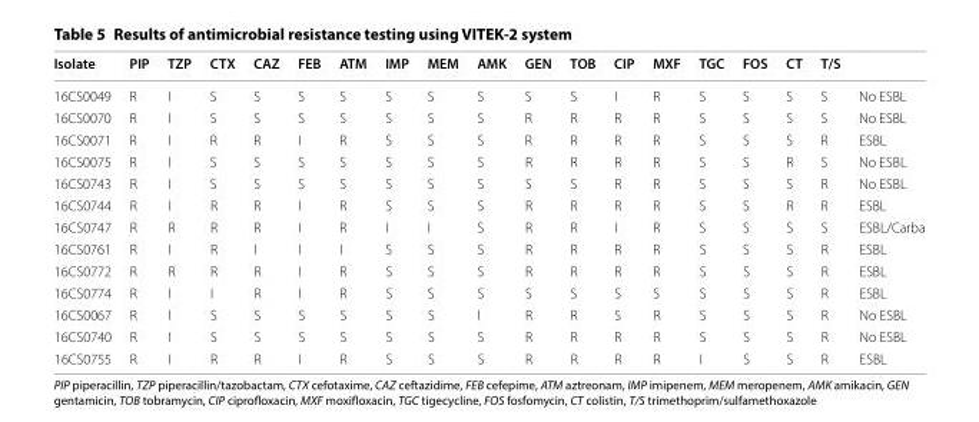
<table><thead><tr><td>Isolate</td><td>PIP</td><td>TZP</td><td>CTX</td><td>CAZ</td><td>FEB</td><td>ATM</td><td>IMP</td><td>MEM</td><td>AMK</td><td>GEN</td><td>TOB</td><td>CIP</td><td>MXF</td><td>TGC</td><td>FOS</td><td>CT</td><td>T/S</td><td></td></tr></thead><tbody><tr><td>16CS0049</td><td>R</td><td>I</td><td>S</td><td>S</td><td>S</td><td>S</td><td>S</td><td>S</td><td>S</td><td>S</td><td>S</td><td>I</td><td>R</td><td>S</td><td>S</td><td>S</td><td>S</td><td>No ESBL</td></tr><tr><td>16CS0070</td><td>R</td><td>I</td><td>S</td><td>S</td><td>S</td><td>S</td><td>S</td><td>S</td><td>S</td><td>R</td><td>R</td><td>R</td><td>R</td><td>S</td><td>S</td><td>S</td><td>S</td><td>No ESBL</td></tr><tr><td>16CS0071</td><td>R</td><td>I</td><td>R</td><td>R</td><td>I</td><td>R</td><td>S</td><td>S</td><td>S</td><td>R</td><td>R</td><td>R</td><td>R</td><td>S</td><td>S</td><td>S</td><td>R</td><td>ESBL</td></tr><tr><td>16CS0075</td><td>R</td><td>I</td><td>S</td><td>S</td><td>S</td><td>S</td><td>S</td><td>S</td><td>S</td><td>R</td><td>R</td><td>R</td><td>R</td><td>S</td><td>S</td><td>R</td><td>S</td><td>No ESBL</td></tr><tr><td>16CS0743</td><td>R</td><td>I</td><td>S</td><td>S</td><td>S</td><td>S</td><td>S</td><td>S</td><td>S</td><td>S</td><td>S</td><td>R</td><td>R</td><td>S</td><td>S</td><td>S</td><td>R</td><td>No ESBL</td></tr><tr><td>16CS0744</td><td>R</td><td>I</td><td>R</td><td>R</td><td>I</td><td>R</td><td>S</td><td>S</td><td>S</td><td>R</td><td>R</td><td>R</td><td>R</td><td>S</td><td>S</td><td>R</td><td>R</td><td>ESBL</td></tr><tr><td>16CS0747</td><td>R</td><td>R</td><td>R</td><td>R</td><td>I</td><td>R</td><td>I</td><td>I</td><td>S</td><td>R</td><td>R</td><td>I</td><td>R</td><td>S</td><td>S</td><td>S</td><td>S</td><td>ESBL/Carba</td></tr><tr><td>16CS0761</td><td>R</td><td>I</td><td>R</td><td>I</td><td>I</td><td>I</td><td>S</td><td>S</td><td>S</td><td>R</td><td>R</td><td>R</td><td>R</td><td>S</td><td>S</td><td>S</td><td>R</td><td>ESBL</td></tr><tr><td>16CS0772</td><td>R</td><td>R</td><td>R</td><td>R</td><td>I</td><td>R</td><td>S</td><td>S</td><td>S</td><td>R</td><td>R</td><td>R</td><td>R</td><td>S</td><td>S</td><td>S</td><td>R</td><td>ESBL</td></tr><tr><td>16CS0774</td><td>R</td><td>I</td><td>I</td><td>R</td><td>I</td><td>R</td><td>S</td><td>S</td><td>S</td><td>S</td><td>S</td><td>S</td><td>S</td><td>S</td><td>S</td><td>S</td><td>R</td><td>ESBL</td></tr><tr><td>16CS0067</td><td>R</td><td>I</td><td>S</td><td>S</td><td>S</td><td>S</td><td>S</td><td>S</td><td>I</td><td>R</td><td>R</td><td>S</td><td>R</td><td>S</td><td>S</td><td>S</td><td>R</td><td>No ESBL</td></tr><tr><td>16CS0740</td><td>R</td><td>I</td><td>S</td><td>S</td><td>S</td><td>S</td><td>S</td><td>S</td><td>S</td><td>R</td><td>R</td><td>R</td><td>R</td><td>S</td><td>S</td><td>S</td><td>R</td><td>No ESBL</td></tr><tr><td>16CS0755</td><td>R</td><td>I</td><td>R</td><td>R</td><td>I</td><td>R</td><td>S</td><td>S</td><td>S</td><td>R</td><td>R</td><td>R</td><td>R</td><td>I</td><td>S</td><td>S</td><td>R</td><td>ESBL</td></tr></tbody></table>